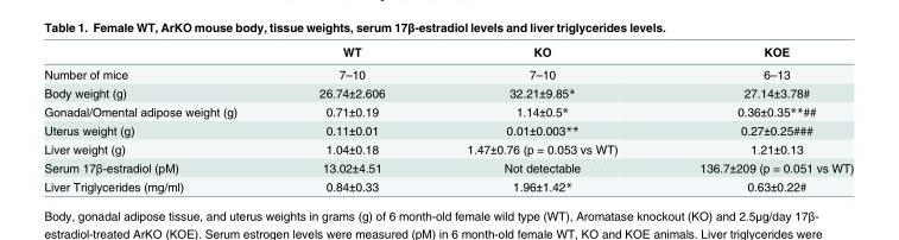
<table><thead><tr><td></td><td>WT</td><td>KO</td><td>KOE</td></tr></thead><tbody><tr><td>Number of mice</td><td>7–10</td><td>7–10</td><td>6–13</td></tr><tr><td>Body weight (g)</td><td>26.74±2.606</td><td>32.21±9.85*</td><td>27.14±3.78#</td></tr><tr><td>Gonadal/Omental adipose weight (g)</td><td>0.71±0.19</td><td>1.14±0.5*</td><td>0.36±0.35**##</td></tr><tr><td>Uterus weight (g)</td><td>0.11±0.01</td><td>0.01±0.003**</td><td>0.27±0.25###</td></tr><tr><td>Liver weight (g)</td><td>1.04±0.18</td><td>1.47±0.76 (p = 0.053 vs WT)</td><td>1.21±0.13</td></tr><tr><td>Serum 17β-estradiol (pM)</td><td>13.02±4.51</td><td>Not detectable</td><td>136.7±209 (p = 0.051 vs WT)</td></tr><tr><td>Liver Triglycerides (mg/ml)</td><td>0.84±0.33</td><td>1.96±1.42*</td><td>0.63±0.22#</td></tr></tbody></table>